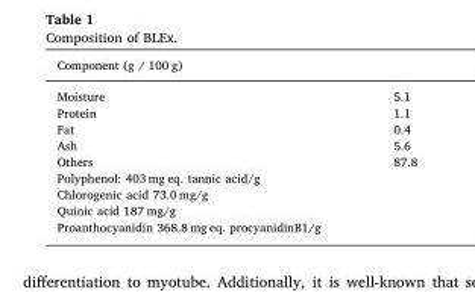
<table><thead><tr><td>Component (g / 100 g)</td><td></td></tr></thead><tbody><tr><td>Moisture</td><td>5.1</td></tr><tr><td>Protein</td><td>1.1</td></tr><tr><td>Fat</td><td>0.4</td></tr><tr><td>Ash</td><td>5.6</td></tr><tr><td>Others</td><td>87.8</td></tr><tr><td colspan="2">Polyphenol: 403 mg eq. tannic acid/g</td></tr><tr><td colspan="2">Chlorogenic acid 73.0 mg/g</td></tr><tr><td colspan="2">Quinic acid 187 mg/g</td></tr><tr><td colspan="2">Proanthocyanidin 368.8 mg eq. procyanidinB1/g</td></tr></tbody></table>